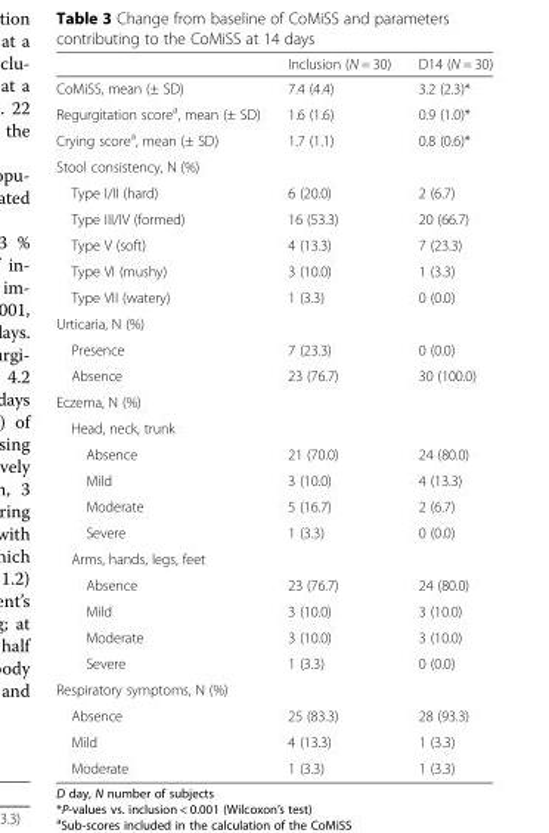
<table><thead><tr><td></td><td>Inclusion (N = 30)</td><td>D14 (N = 30)</td></tr></thead><tbody><tr><td>CoMiSS, mean (± SD)</td><td>7.4 (4.4)</td><td>3.2 (2.3)*</td></tr><tr><td>Regurgitation score<sup>a</sup>, mean (± SD)</td><td>1.6 (1.6)</td><td>0.9 (1.0)*</td></tr><tr><td>Crying score<sup>a</sup>, mean (± SD)</td><td>1.7 (1.1)</td><td>0.8 (0.6)*</td></tr><tr><td colspan="3">Stool consistency, N (%)</td></tr><tr><td>Type I/II (hard)</td><td>6 (20.0)</td><td>2 (6.7)</td></tr><tr><td>Type III/IV (formed)</td><td>16 (53.3)</td><td>20 (66.7)</td></tr><tr><td>Type V (soft)</td><td>4 (13.3)</td><td>7 (23.3)</td></tr><tr><td>Type VI (mushy)</td><td>3 (10.0)</td><td>1 (3.3)</td></tr><tr><td>Type VII (watery)</td><td>1 (3.3)</td><td>0 (0.0)</td></tr><tr><td colspan="3">Urticaria, N (%)</td></tr><tr><td>Presence</td><td>7 (23.3)</td><td>0 (0.0)</td></tr><tr><td>Absence</td><td>23 (76.7)</td><td>30 (100.0)</td></tr><tr><td colspan="3">Eczema, N (%)</td></tr><tr><td colspan="3">Head, neck, trunk</td></tr><tr><td>Absence</td><td>21 (70.0)</td><td>24 (80.0)</td></tr><tr><td>Mild</td><td>3 (10.0)</td><td>4 (13.3)</td></tr><tr><td>Moderate</td><td>5 (16.7)</td><td>2 (6.7)</td></tr><tr><td>Severe</td><td>1 (3.3)</td><td>0 (0.0)</td></tr><tr><td colspan="3">Arms, hands, legs, feet</td></tr><tr><td>Absence</td><td>23 (76.7)</td><td>24 (80.0)</td></tr><tr><td>Mild</td><td>3 (10.0)</td><td>3 (10.0)</td></tr><tr><td>Moderate</td><td>3 (10.0)</td><td>3 (10.0)</td></tr><tr><td>Severe</td><td>1 (3.3)</td><td>0 (0.0)</td></tr><tr><td colspan="3">Respiratory symptoms, N (%)</td></tr><tr><td>Absence</td><td>25 (83.3)</td><td>28 (93.3)</td></tr><tr><td>Mild</td><td>4 (13.3)</td><td>1 (3.3)</td></tr><tr><td>Moderate</td><td>1 (3.3)</td><td>1 (3.3)</td></tr></tbody></table>